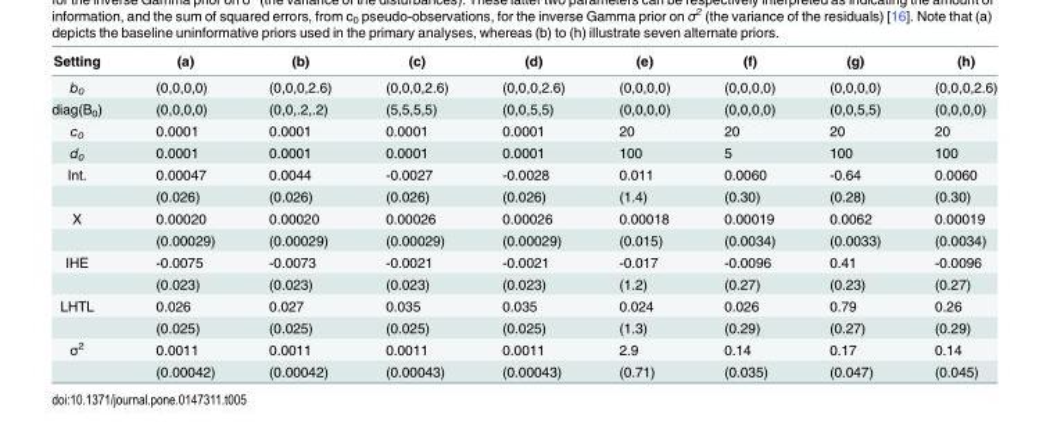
<table><thead><tr><td>Setting</td><td>(a)</td><td>(b)</td><td>(c)</td><td>(d)</td><td>(e)</td><td>(f)</td><td>(g)</td><td>(h)</td></tr></thead><tbody><tr><td>b<sub>0</sub></td><td>(0,0,0,0)</td><td>(0,0,0,2.6)</td><td>(0,0,0,2.6)</td><td>(0,0,0,2.6)</td><td>(0,0,0,0)</td><td>(0,0,0,0)</td><td>(0,0,0,0)</td><td>(0,0,0,2.6)</td></tr><tr><td>diag(B<sub>0</sub>)</td><td>(0,0,0,0)</td><td>(0,0,.2,.2)</td><td>(5,5,5,5)</td><td>(0,0,5,5)</td><td>(0,0,0,0)</td><td>(0,0,0,0)</td><td>(0,0,5,5)</td><td>(0,0,0,0)</td></tr><tr><td>c<sub>0</sub></td><td>0.0001</td><td>0.0001</td><td>0.0001</td><td>0.0001</td><td>20</td><td>20</td><td>20</td><td>20</td></tr><tr><td>d<sub>0</sub></td><td>0.0001</td><td>0.0001</td><td>0.0001</td><td>0.0001</td><td>100</td><td>5</td><td>100</td><td>100</td></tr><tr><td rowspan="2">Int.</td><td>0.00047</td><td>0.0044</td><td>-0.0027</td><td>-0.0028</td><td>0.011</td><td>0.0060</td><td>-0.64</td><td>0.0060</td></tr><tr><td>(0.026)</td><td>(0.026)</td><td>(0.026)</td><td>(0.026)</td><td>(1.4)</td><td>(0.30)</td><td>(0.28)</td><td>(0.30)</td></tr><tr><td rowspan="2">X</td><td>0.00020</td><td>0.00020</td><td>0.00026</td><td>0.00026</td><td>0.00018</td><td>0.00019</td><td>0.0062</td><td>0.00019</td></tr><tr><td>(0.00029)</td><td>(0.00029)</td><td>(0.00029)</td><td>(0.00029)</td><td>(0.015)</td><td>(0.0034)</td><td>(0.0033)</td><td>(0.0034)</td></tr><tr><td rowspan="2">IHE</td><td>-0.0075</td><td>-0.0073</td><td>-0.0021</td><td>-0.0021</td><td>-0.017</td><td>-0.0096</td><td>0.41</td><td>-0.0096</td></tr><tr><td>(0.023)</td><td>(0.023)</td><td>(0.023)</td><td>(0.023)</td><td>(1.2)</td><td>(0.27)</td><td>(0.23)</td><td>(0.27)</td></tr><tr><td rowspan="2">LHTL</td><td>0.026</td><td>0.027</td><td>0.035</td><td>0.035</td><td>0.024</td><td>0.026</td><td>0.79</td><td>0.26</td></tr><tr><td>(0.025)</td><td>(0.025)</td><td>(0.025)</td><td>(0.025)</td><td>(1.3)</td><td>(0.29)</td><td>(0.27)</td><td>(0.29)</td></tr><tr><td rowspan="2">σ<sup>2</sup></td><td>0.0011</td><td>0.0011</td><td>0.0011</td><td>0.0011</td><td>2.9</td><td>0.14</td><td>0.17</td><td>0.14</td></tr><tr><td>(0.00042)</td><td>(0.00042)</td><td>(0.00043)</td><td>(0.00043)</td><td>(0.71)</td><td>(0.035)</td><td>(0.047)</td><td>(0.045)</td></tr></tbody></table>